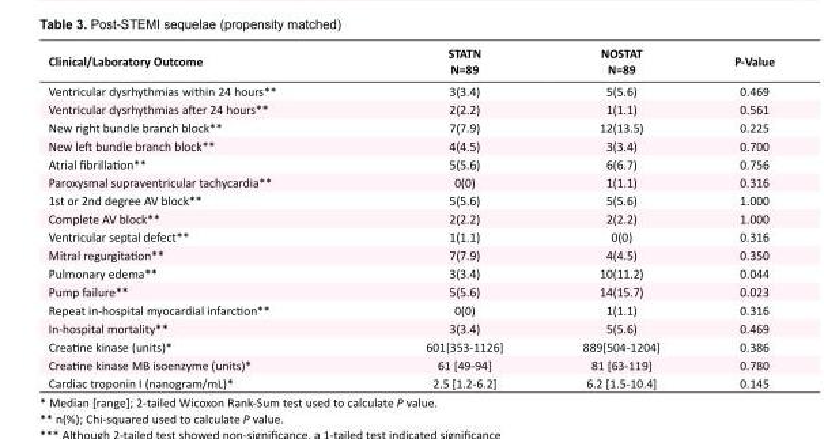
<table><tbody><tr><td>Clinical/Laboratory Outcome</td><td>STATN N=89</td><td>NOSTAT N=89</td><td>P-Value</td></tr><tr><td>Ventricular dysrhythmias within 24 hours**</td><td>3(3.4)</td><td>5(5.6)</td><td>0.469</td></tr><tr><td>Ventricular dysrhythmias after 24 hours**</td><td>2(2.2)</td><td>1(1.1)</td><td>0.561</td></tr><tr><td>New right bundle branch block**</td><td>7(7.9)</td><td>12(13.5)</td><td>0.225</td></tr><tr><td>New left bundle branch block**</td><td>4(4.5)</td><td>3(3.4)</td><td>0.700</td></tr><tr><td>Atrial fibrillation**</td><td>5(5.6)</td><td>6(6.7)</td><td>0.756</td></tr><tr><td>Paroxysmal supraventricular tachycardia**</td><td>0(0)</td><td>1(1.1)</td><td>0.316</td></tr><tr><td>1st or 2nd degree AV block**</td><td>5(5.6)</td><td>5(5.6)</td><td>1.000</td></tr><tr><td>Complete AV block**</td><td>2(2.2)</td><td>2(2.2)</td><td>1.000</td></tr><tr><td>Ventricular septal defect**</td><td>1(1.1)</td><td>0(0)</td><td>0.316</td></tr><tr><td>Mitral regurgitation**</td><td>7(7.9)</td><td>4(4.5)</td><td>0.350</td></tr><tr><td>Pulmonary edema**</td><td>3(3.4)</td><td>10(11.2)</td><td>0.044</td></tr><tr><td>Pump failure**</td><td>5(5.6)</td><td>14(15.7)</td><td>0.023</td></tr><tr><td>Repeat in-hospital myocardial infarction**</td><td>0(0)</td><td>1(1.1)</td><td>0.316</td></tr><tr><td>In-hospital mortality**</td><td>3(3.4)</td><td>5(5.6)</td><td>0.469</td></tr><tr><td>Creatine kinase (units)*</td><td>601[353-1126]</td><td>889[504-1204]</td><td>0.386</td></tr><tr><td>Creatine kinase MB isoenzyme (units)*</td><td>61 [49-94]</td><td>81 [63-119]</td><td>0.780</td></tr><tr><td>Cardiac troponin I (nanogram/mL)*</td><td>2.5 [1.2-6.2]</td><td>6.2 [1.5-10.4]</td><td>0.145</td></tr></tbody></table>